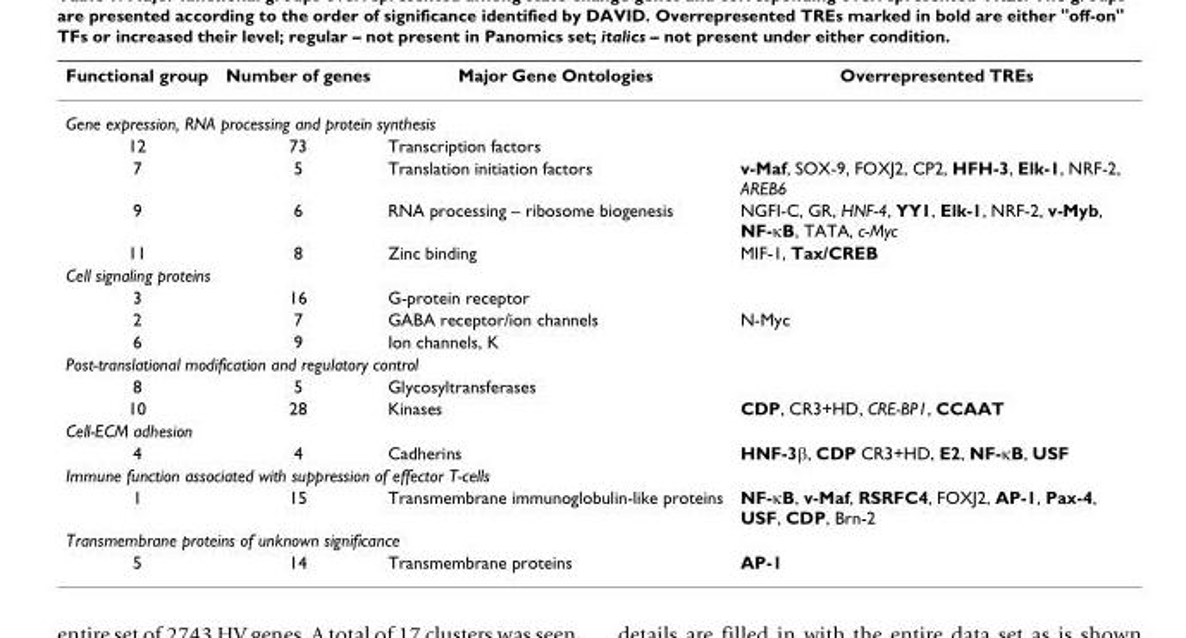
<table><thead><tr><td>Functional group</td><td>Number of genes</td><td>Major Gene Ontologies</td><td>Overrepresented TREs</td></tr></thead><tbody><tr><td colspan="4">Gene expression, RNA processing and protein synthesis</td></tr><tr><td>12</td><td>73</td><td>Transcription factors</td><td></td></tr><tr><td>7</td><td>5</td><td>Translation initiation factors</td><td>v-Maf, SOX-9, FOXJ2, CP2, HFH-3, Elk-1, NRF-2, AREB6</td></tr><tr><td>9</td><td>6</td><td>RNA processing – ribosome biogenesis</td><td>NGFI-C, GR, HNF-4, YY1, Elk-1, NRF-2, v-Myb, NF-κB, TATA, c-Myc</td></tr><tr><td>11</td><td>8</td><td>Zinc binding</td><td>MIF-1, Tax/CREB</td></tr><tr><td colspan="4">Cell signaling proteins</td></tr><tr><td>3</td><td>16</td><td>G-protein receptor</td><td></td></tr><tr><td>2</td><td>7</td><td>GABA receptor/ion channels</td><td>N-Myc</td></tr><tr><td>6</td><td>9</td><td>Ion channels, K</td><td></td></tr><tr><td colspan="4">Post-translational modification and regulatory control</td></tr><tr><td>8</td><td>5</td><td>Glycosyltransferases</td><td></td></tr><tr><td>10</td><td>28</td><td>Kinases</td><td>CDP, CR3+HD, CRE-BP1, CCAAT</td></tr><tr><td colspan="4">Cell-ECM adhesion</td></tr><tr><td>4</td><td>4</td><td>Cadherins</td><td>HNF-3β, CDP CR3+HD, E2, NF-κB, USF</td></tr><tr><td colspan="4">Immune function associated with suppression of effector T-cells</td></tr><tr><td>1</td><td>15</td><td>Transmembrane immunoglobulin-like proteins</td><td>NF-κB, v-Maf, RSRFC4, FOXJ2, AP-1, Pax-4, USF, CDP, Brn-2</td></tr><tr><td colspan="4">Transmembrane proteins of unknown significance</td></tr><tr><td>5</td><td>14</td><td>Transmembrane proteins</td><td>AP-1</td></tr></tbody></table>